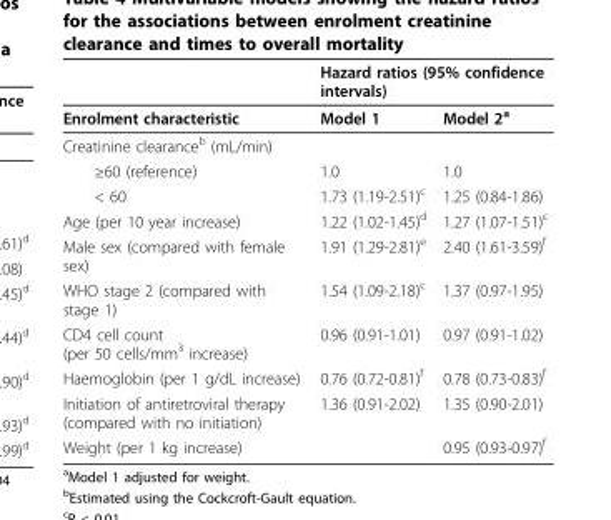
<table><thead><tr><td rowspan="2">Enrolment characteristic</td><td colspan="2">Hazard ratios (95% confidence intervals)</td></tr><tr><td>Model 1</td><td>Model 2<sup>a</sup></td></tr></thead><tbody><tr><td colspan="3">Creatinine clearance<sup>b</sup> (mL/min)</td></tr><tr><td>≥60 (reference)</td><td>1.0</td><td>1.0</td></tr><tr><td>&lt; 60</td><td>1.73 (1.19-2.51)<sup>c</sup></td><td>1.25 (0.84-1.86)</td></tr><tr><td>Age (per 10 year increase)</td><td>1.22 (1.02-1.45)<sup>d</sup></td><td>1.27 (1.07-1.51)<sup>c</sup></td></tr><tr><td>Male sex (compared with female sex)</td><td>1.91 (1.29-2.81)<sup>e</sup></td><td>2.40 (1.61-3.59)<sup>f</sup></td></tr><tr><td>WHO stage 2 (compared with stage 1)</td><td>1.54 (1.09-2.18)<sup>c</sup></td><td>1.37 (0.97-1.95)</td></tr><tr><td>CD4 cell count (per 50 cells/mm<sup>3</sup> increase)</td><td>0.96 (0.91-1.01)</td><td>0.97 (0.91-1.02)</td></tr><tr><td>Haemoglobin (per 1 g/dL increase)</td><td>0.76 (0.72-0.81)<sup>f</sup></td><td>0.78 (0.73-0.83)<sup>f</sup></td></tr><tr><td>Initiation of antiretroviral therapy (compared with no initiation)</td><td>1.36 (0.91-2.02)</td><td>1.35 (0.90-2.01)</td></tr><tr><td>Weight (per 1 kg increase)</td><td></td><td>0.95 (0.93-0.97)<sup>f</sup></td></tr></tbody></table>